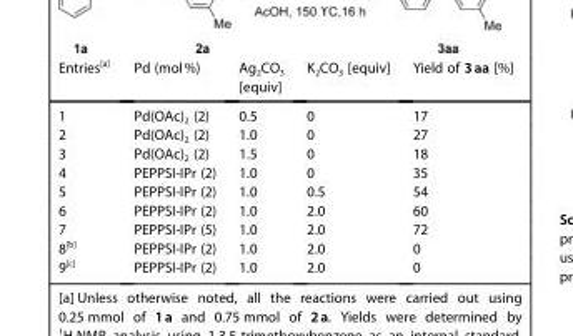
<table><thead><tr><td>Entries<sup>[a]</sup></td><td>Pd (mol%)</td><td>Ag<sub>2</sub>CO<sub>3</sub> [equiv]</td><td>K<sub>2</sub>CO<sub>3</sub> [equiv]</td><td>Yield of 3aa [%]</td></tr></thead><tbody><tr><td>1</td><td>Pd(OAc)<sub>2</sub> (2)</td><td>0.5</td><td>0</td><td>17</td></tr><tr><td>2</td><td>Pd(OAc)<sub>2</sub> (2)</td><td>1.0</td><td>0</td><td>27</td></tr><tr><td>3</td><td>Pd(OAc)<sub>2</sub> (2)</td><td>1.5</td><td>0</td><td>18</td></tr><tr><td>4</td><td>PEPPSI-IPr (2)</td><td>1.0</td><td>0</td><td>35</td></tr><tr><td>5</td><td>PEPPSI-IPr (2)</td><td>1.0</td><td>0.5</td><td>54</td></tr><tr><td>6</td><td>PEPPSI-IPr (2)</td><td>1.0</td><td>2.0</td><td>60</td></tr><tr><td>7</td><td>PEPPSI-IPr (5)</td><td>1.0</td><td>2.0</td><td>72</td></tr><tr><td>8<sup>[b]</sup></td><td>PEPPSI-IPr (2)</td><td>1.0</td><td>2.0</td><td>0</td></tr><tr><td>9<sup>[c]</sup></td><td>PEPPSI-IPr (2)</td><td>1.0</td><td>2.0</td><td>0</td></tr></tbody></table>